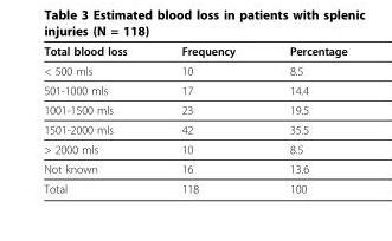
<table><thead><tr><td>Total blood loss</td><td>Frequency</td><td>Percentage</td></tr></thead><tbody><tr><td>&lt; 500 mls</td><td>10</td><td>8.5</td></tr><tr><td>501-1000 mls</td><td>17</td><td>14.4</td></tr><tr><td>1001-1500 mls</td><td>23</td><td>19.5</td></tr><tr><td>1501-2000 mls</td><td>42</td><td>35.5</td></tr><tr><td>&gt; 2000 mls</td><td>10</td><td>8.5</td></tr><tr><td>Not known</td><td>16</td><td>13.6</td></tr><tr><td>Total</td><td>118</td><td>100</td></tr></tbody></table>